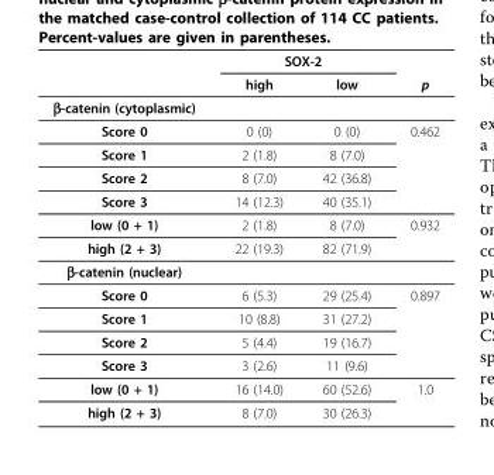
<table><thead><tr><td rowspan="2"></td><td colspan="2">SOX-2</td><td rowspan="2">p</td></tr><tr><td>high</td><td>low</td></tr></thead><tbody><tr><td colspan="4">β-catenin (cytoplasmic)</td></tr><tr><td>Score 0</td><td>0 (0)</td><td>0 (0)</td><td>0.462</td></tr><tr><td>Score 1</td><td>2 (1.8)</td><td>8 (7.0)</td><td></td></tr><tr><td>Score 2</td><td>8 (7.0)</td><td>42 (36.8)</td><td></td></tr><tr><td>Score 3</td><td>14 (12.3)</td><td>40 (35.1)</td><td></td></tr><tr><td>low (0 + 1)</td><td>2 (1.8)</td><td>8 (7.0)</td><td>0.932</td></tr><tr><td>high (2 + 3)</td><td>22 (19.3)</td><td>82 (71.9)</td><td></td></tr><tr><td colspan="4">β-catenin (nuclear)</td></tr><tr><td>Score 0</td><td>6 (5.3)</td><td>29 (25.4)</td><td>0.897</td></tr><tr><td>Score 1</td><td>10 (8.8)</td><td>31 (27.2)</td><td></td></tr><tr><td>Score 2</td><td>5 (4.4)</td><td>19 (16.7)</td><td></td></tr><tr><td>Score 3</td><td>3 (2.6)</td><td>11 (9.6)</td><td></td></tr><tr><td>low (0 + 1)</td><td>16 (14.0)</td><td>60 (52.6)</td><td>1.0</td></tr><tr><td>high (2 + 3)</td><td>8 (7.0)</td><td>30 (26.3)</td><td></td></tr></tbody></table>